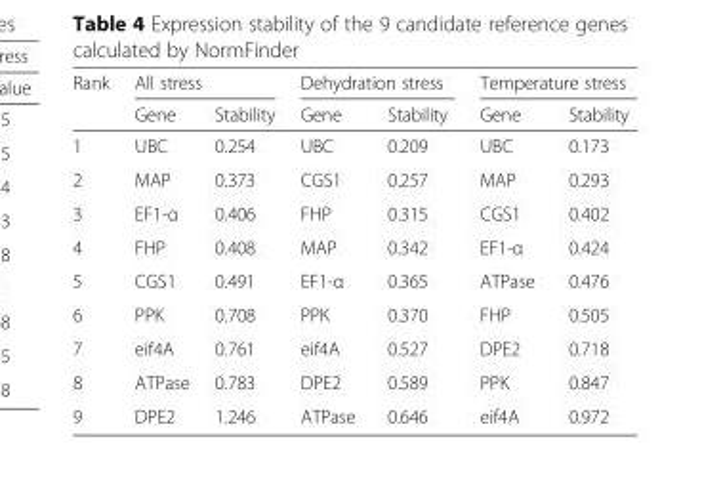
<table><thead><tr><td rowspan="2">Rank</td><td colspan="2">All stress</td><td colspan="2">Dehydration stress</td><td colspan="2">Temperature stress</td></tr><tr><td>Gene</td><td>Stability</td><td>Gene</td><td>Stability</td><td>Gene</td><td>Stability</td></tr></thead><tbody><tr><td>1</td><td>UBC</td><td>0.254</td><td>UBC</td><td>0.209</td><td>UBC</td><td>0.173</td></tr><tr><td>2</td><td>MAP</td><td>0.373</td><td>CGS1</td><td>0.257</td><td>MAP</td><td>0.293</td></tr><tr><td>3</td><td>EF1-α</td><td>0.406</td><td>FHP</td><td>0.315</td><td>CGS1</td><td>0.402</td></tr><tr><td>4</td><td>FHP</td><td>0.408</td><td>MAP</td><td>0.342</td><td>EF1-α</td><td>0.424</td></tr><tr><td>5</td><td>CGS1</td><td>0.491</td><td>EF1-α</td><td>0.365</td><td>ATPase</td><td>0.476</td></tr><tr><td>6</td><td>PPK</td><td>0.708</td><td>PPK</td><td>0.370</td><td>FHP</td><td>0.505</td></tr><tr><td>7</td><td>eif4A</td><td>0.761</td><td>eif4A</td><td>0.527</td><td>DPE2</td><td>0.718</td></tr><tr><td>8</td><td>ATPase</td><td>0.783</td><td>DPE2</td><td>0.589</td><td>PPK</td><td>0.847</td></tr><tr><td>9</td><td>DPE2</td><td>1.246</td><td>ATPase</td><td>0.646</td><td>eif4A</td><td>0.972</td></tr></tbody></table>